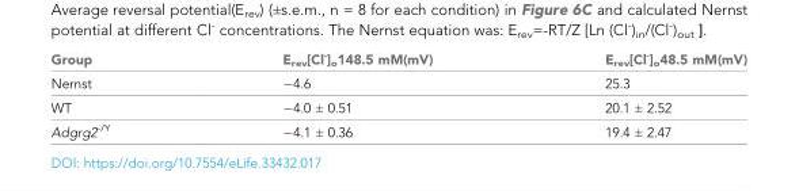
<table><thead><tr><td>Group</td><td>E<sub>rev</sub>[Cl<sup>-</sup>]<sub>o</sub>148.5 mM(mV)</td><td>E<sub>rev</sub>[Cl<sup>-</sup>]<sub>o</sub>48.5 mM(mV)</td></tr></thead><tbody><tr><td>Nernst</td><td>−4.6</td><td>25.3</td></tr><tr><td>WT</td><td>−4.0 ± 0.51</td><td>20.1 ± 2.52</td></tr><tr><td>Adgrg2<sup>-/Y</sup></td><td>−4.1 ± 0.36</td><td>19.4 ± 2.47</td></tr></tbody></table>